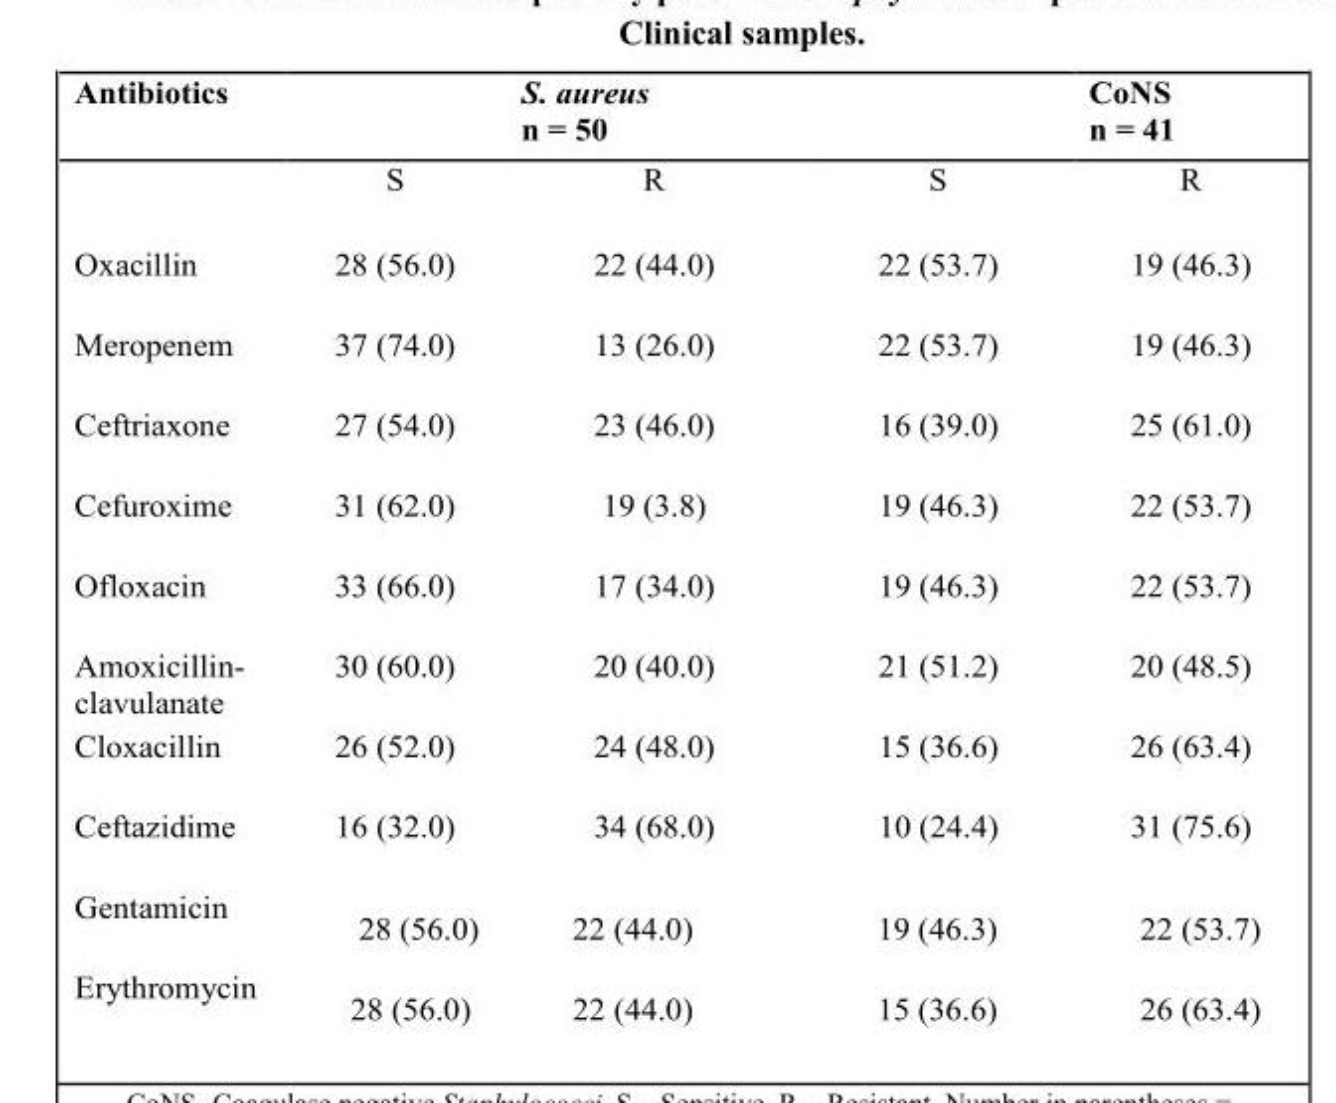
<table><thead><tr><td rowspan="3">Antibiotics</td><td rowspan="2" colspan="2">S. aureus n = 50</td><td rowspan="2" colspan="2">CoNS n = 41</td></tr><tr></tr><tr><td>S</td><td>R</td><td>S</td><td>R</td></tr></thead><tbody><tr><td>Oxacillin</td><td>28 (56.0)</td><td>22 (44.0)</td><td>22 (53.7)</td><td>19 (46.3)</td></tr><tr><td>Meropenem</td><td>37 (74.0)</td><td>13 (26.0)</td><td>22 (53.7)</td><td>19 (46.3)</td></tr><tr><td>Ceftriaxone</td><td>27 (54.0)</td><td>23 (46.0)</td><td>16 (39.0)</td><td>25 (61.0)</td></tr><tr><td>Cefuroxime</td><td>31 (62.0)</td><td>19 (3.8)</td><td>19 (46.3)</td><td>22 (53.7)</td></tr><tr><td>Ofloxacin</td><td>33 (66.0)</td><td>17 (34.0)</td><td>19 (46.3)</td><td>22 (53.7)</td></tr><tr><td>Amoxicillin- clavulanate</td><td>30 (60.0)</td><td>20 (40.0)</td><td>21 (51.2)</td><td>20 (48.5)</td></tr><tr><td>Cloxacillin</td><td>26 (52.0)</td><td>24 (48.0)</td><td>15 (36.6)</td><td>26 (63.4)</td></tr><tr><td>Ceftazidime</td><td>16 (32.0)</td><td>34 (68.0)</td><td>10 (24.4)</td><td>31 (75.6)</td></tr><tr><td>Gentamicin</td><td>28 (56.0)</td><td>22 (44.0)</td><td>19 (46.3)</td><td>22 (53.7)</td></tr><tr><td>Erythromycin</td><td>28 (56.0)</td><td>22 (44.0)</td><td>15 (36.6)</td><td>26 (63.4)</td></tr></tbody></table>